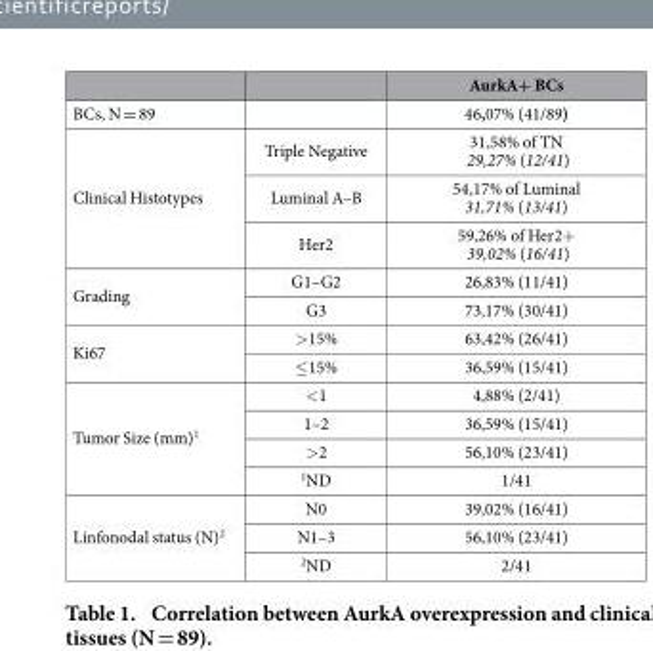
<table><thead><tr><td rowspan="2">BCs, N = 89</td><td rowspan="2"></td><td rowspan="2">AurkA+ BCs 46,07% (41/89)</td></tr><tr></tr></thead><tbody><tr><td rowspan="3">Clinical Histotypes</td><td>Triple Negative</td><td>31,58% of TN 29,27% (12/41)</td></tr><tr><td>Luminal A–B</td><td>54,17% of Luminal 31,71% (13/41)</td></tr><tr><td>Her2</td><td>59,26% of Her2+ 39,02% (16/41)</td></tr><tr><td rowspan="2">Grading</td><td>G1–G2</td><td>26,83% (11/41)</td></tr><tr><td>G3</td><td>73,17% (30/41)</td></tr><tr><td rowspan="2">Ki67</td><td>&gt;15%</td><td>63,42% (26/41)</td></tr><tr><td>≤15%</td><td>36,59% (15/41)</td></tr><tr><td rowspan="4">Tumor Size (mm)<sup>1</sup></td><td>&lt; 1</td><td>4,88% (2/41)</td></tr><tr><td>1–2</td><td>36,59% (15/41)</td></tr><tr><td>&gt; 2</td><td>56,10% (23/41)</td></tr><tr><td><sup>1</sup>ND</td><td>1/41</td></tr><tr><td rowspan="3">Linfonodal status (N)<sup>2</sup></td><td>N0</td><td>39,02% (16/41)</td></tr><tr><td>N1–3</td><td>56,10% (23/41)</td></tr><tr><td><sup>2</sup>ND</td><td>2/41</td></tr></tbody></table>